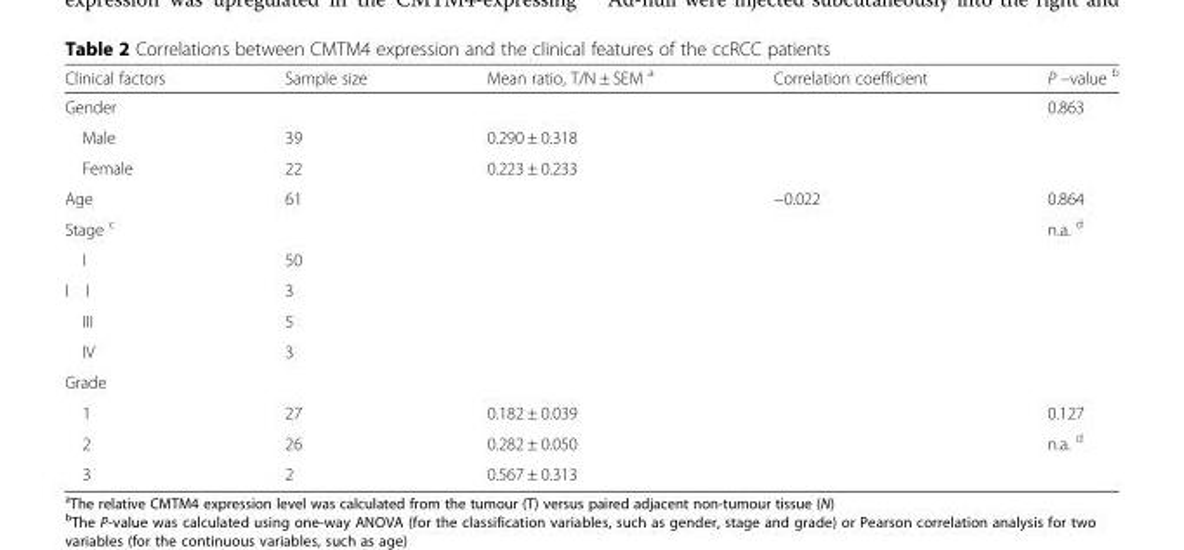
<table><thead><tr><td>Clinical factors</td><td>Sample size</td><td>Mean ratio, T/N ± SEM <sup>a</sup></td><td>Correlation coefficient</td><td>P –value <sup>b</sup></td></tr></thead><tbody><tr><td>Gender</td><td></td><td></td><td></td><td>0.863</td></tr><tr><td>Male</td><td>39</td><td>0.290 ± 0.318</td><td></td><td></td></tr><tr><td>Female</td><td>22</td><td>0.223 ± 0.233</td><td></td><td></td></tr><tr><td>Age</td><td>61</td><td></td><td>−0.022</td><td>0.864</td></tr><tr><td>Stage <sup>c</sup></td><td></td><td></td><td></td><td>n.a. <sup>d</sup></td></tr><tr><td>I</td><td>50</td><td></td><td></td><td></td></tr><tr><td>I I</td><td>3</td><td></td><td></td><td></td></tr><tr><td>III</td><td>5</td><td></td><td></td><td></td></tr><tr><td>IV</td><td>3</td><td></td><td></td><td></td></tr><tr><td colspan="5">Grade</td></tr><tr><td>1</td><td>27</td><td>0.182 ± 0.039</td><td></td><td>0.127</td></tr><tr><td>2</td><td>26</td><td>0.282 ± 0.050</td><td></td><td>n.a. <sup>d</sup></td></tr><tr><td>3</td><td>2</td><td>0.567 ± 0.313</td><td></td><td></td></tr></tbody></table>